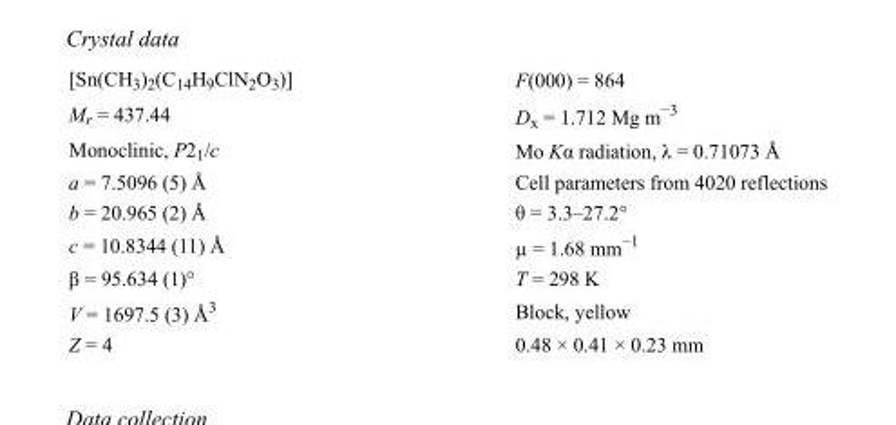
<table><tbody><tr><td>[Sn(CH<sub>3</sub>)<sub>2</sub>(C<sub>14</sub>H<sub>9</sub>ClN<sub>2</sub>O<sub>3</sub>)]</td><td>F(000) = 864</td></tr><tr><td>M<sub>r</sub> = 437.44</td><td>D<sub>x</sub> = 1.712 Mg m<sup>−3</sup></td></tr><tr><td>Monoclinic, P2<sub>1</sub>/c</td><td>Mo Kα radiation, λ = 0.71073 Å</td></tr><tr><td>a = 7.5096 (5) Å</td><td>Cell parameters from 4020 reflections</td></tr><tr><td>b = 20.965 (2) Å</td><td>θ = 3.3–27.2°</td></tr><tr><td>c = 10.8344 (11) Å</td><td>µ = 1.68 mm<sup>−1</sup></td></tr><tr><td>β = 95.634 (1)°</td><td>T = 298 K</td></tr><tr><td>V = 1697.5 (3) Å<sup>3</sup></td><td>Block, yellow</td></tr><tr><td>Z = 4</td><td>0.48 × 0.41 × 0.23 mm</td></tr></tbody></table>